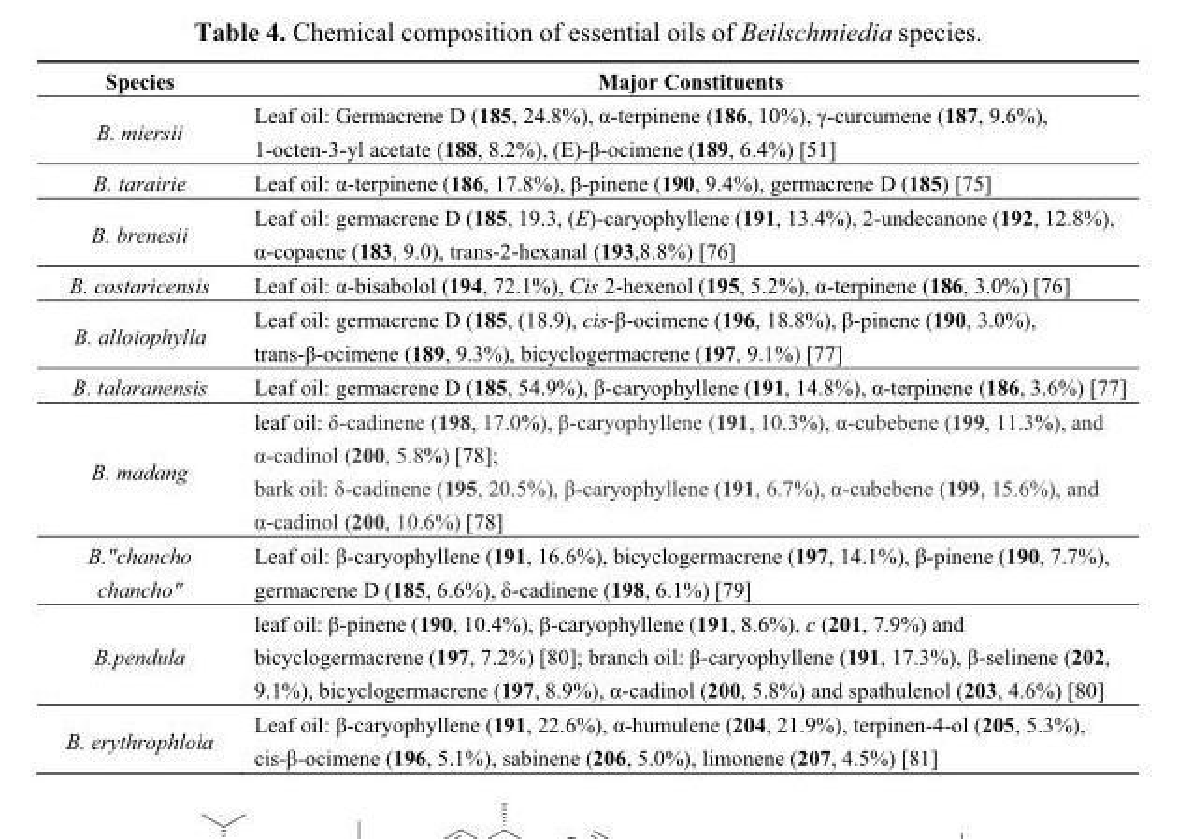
<table><thead><tr><td>Species</td><td>Major Constituents</td></tr></thead><tbody><tr><td>B. miersii</td><td>Leaf oil: Germacrene D (185, 24.8%), α-terpinene (186, 10%), γ-curcumene (187, 9.6%), 1-octen-3-yl acetate (188, 8.2%), (E)-β-ocimene (189, 6.4%) [51]</td></tr><tr><td>B. tarairie</td><td>Leaf oil: α-terpinene (186, 17.8%), β-pinene (190, 9.4%), germacrene D (185) [75]</td></tr><tr><td>B. brenesii</td><td>Leaf oil: germacrene D (185, 19.3, (E)-caryophyllene (191, 13.4%), 2-undecanone (192, 12.8%), α-copaene (183, 9.0), trans-2-hexanal (193,8.8%) [76]</td></tr><tr><td>B. costaricensis</td><td>Leaf oil: α-bisabolol (194, 72.1%), Cis 2-hexenol (195, 5.2%), α-terpinene (186, 3.0%) [76]</td></tr><tr><td>B. alloiophylla</td><td>Leaf oil: germacrene D (185, (18.9), cis-β-ocimene (196, 18.8%), β-pinene (190, 3.0%), trans-β-ocimene (189, 9.3%), bicyclogermacrene (197, 9.1%) [77]</td></tr><tr><td>B. talaranensis</td><td>Leaf oil: germacrene D (185, 54.9%), β-caryophyllene (191, 14.8%), α-terpinene (186, 3.6%) [77]</td></tr><tr><td>B. madang</td><td>leaf oil: δ-cadinene (198, 17.0%), β-caryophyllene (191, 10.3%), α-cubebene (199, 11.3%), and α-cadinol (200, 5.8%) [78]; bark oil: δ-cadinene (195, 20.5%), β-caryophyllene (191, 6.7%), α-cubebene (199, 15.6%), and α-cadinol (200, 10.6%) [78]</td></tr><tr><td>B.&quot;chancho chancho&quot;</td><td>Leaf oil: β-caryophyllene (191, 16.6%), bicyclogermacrene (197, 14.1%), β-pinene (190, 7.7%), germacrene D (185, 6.6%), δ-cadinene (198, 6.1%) [79]</td></tr><tr><td>B.pendula</td><td>leaf oil: β-pinene (190, 10.4%), β-caryophyllene (191, 8.6%), c (201, 7.9%) and bicyclogermacrene (197, 7.2%) [80]; branch oil: β-caryophyllene (191, 17.3%), β-selinene (202, 9.1%), bicyclogermacrene (197, 8.9%), α-cadinol (200, 5.8%) and spathulenol (203, 4.6%) [80]</td></tr><tr><td>B. erythrophloia</td><td>Leaf oil: β-caryophyllene (191, 22.6%), α-humulene (204, 21.9%), terpinen-4-ol (205, 5.3%), cis-β-ocimene (196, 5.1%), sabinene (206, 5.0%), limonene (207, 4.5%) [81]</td></tr></tbody></table>